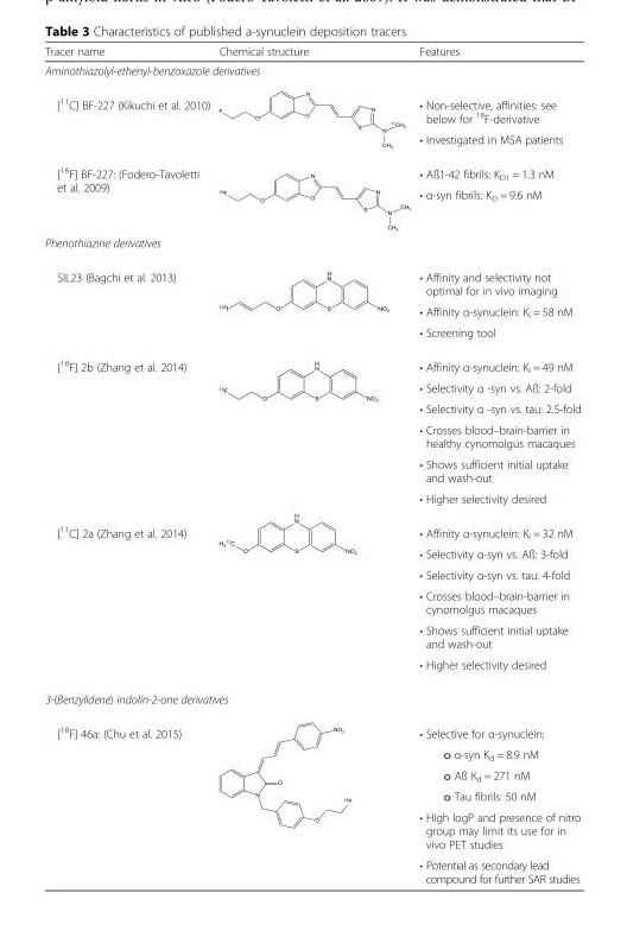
<table><thead><tr><td>Tracer name</td><td>Chemical structure</td><td>Features</td></tr></thead><tbody><tr><td colspan="3">Aminothiazolyl-ethenyl-benzoxazole derivatives</td></tr><tr><td rowspan="2">[<sup>11</sup>C] BF-227 (Kikuchi et al. 2010)</td><td rowspan="2"></td><td>• Non-selective, affinities: see below for <sup>18</sup>F-derivative</td></tr><tr><td>• Investigated in MSA patients</td></tr><tr><td rowspan="2">[<sup>18</sup>F] BF-227: (Fodero-Tavoletti et al. 2009)</td><td rowspan="2"></td><td>• Aß1-42 fibrils: K<sub>D1</sub> = 1.3 nM</td></tr><tr><td>• α-syn fibrils: K<sub>D</sub> = 9.6 nM</td></tr><tr><td colspan="3">Phenothiazine derivatives</td></tr><tr><td rowspan="3">SIL23 (Bagchi et al. 2013)</td><td rowspan="3"></td><td>• Affinity and selectivity not optimal for in vivo imaging</td></tr><tr><td>• Affinity α-synuclein: K<sub>i</sub> = 58 nM</td></tr><tr><td>• Screening tool</td></tr><tr><td rowspan="6">[<sup>18</sup>F] 2b (Zhang et al. 2014)</td><td rowspan="6"></td><td>• Affinity α-synuclein: K<sub>i</sub> = 49 nM</td></tr><tr><td>• Selectivity α -syn vs. Aß: 2-fold</td></tr><tr><td>• Selectivity α -syn vs. tau: 2.5-fold</td></tr><tr><td>• Crosses blood–brain-barrier in healthy cynomolgus macaques</td></tr><tr><td>• Shows sufficient initial uptake and wash-out</td></tr><tr><td>• Higher selectivity desired</td></tr><tr><td rowspan="6">[<sup>11</sup>C] 2a (Zhang et al. 2014)</td><td rowspan="6"></td><td>• Affinity α-synuclein: K<sub>i</sub> = 32 nM</td></tr><tr><td>• Selectivity α-syn vs. Aß: 3-fold</td></tr><tr><td>• Selectivity α-syn vs. tau: 4-fold</td></tr><tr><td>• Crosses blood–brain-barrier in cynomolgus macaques</td></tr><tr><td>• Shows sufficient initial uptake and wash-out</td></tr><tr><td>• Higher selectivity desired</td></tr><tr><td colspan="3">3-(Benzylidene) indolin-2-one derivatives</td></tr><tr><td rowspan="6">[<sup>18</sup>F] 46a: (Chu et al. 2015)</td><td rowspan="6"></td><td>• Selective for α-synuclein:</td></tr><tr><td>o α-syn K<sub>d</sub> = 8.9 nM</td></tr><tr><td>o Aß K<sub>d</sub> = 271 nM</td></tr><tr><td>o Tau fibrils: 50 nM</td></tr><tr><td>• High logP and presence of nitro group may limit its use for in vivo PET studies</td></tr><tr><td>• Potential as secondary lead compound for further SAR studies</td></tr></tbody></table>